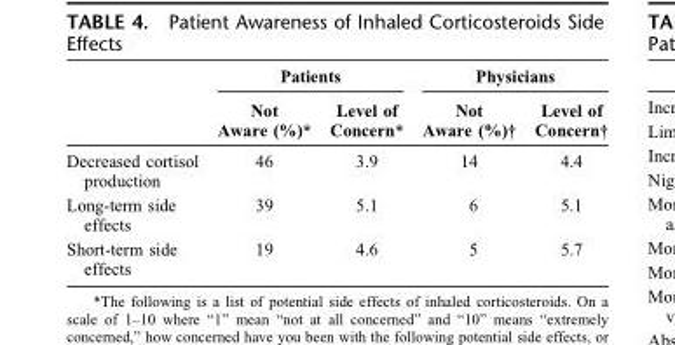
<table><thead><tr><td rowspan="2"></td><td colspan="2">Patients</td><td colspan="2">Physicians</td></tr><tr><td>Not Aware (%)*</td><td>Level of Concern*</td><td>Not Aware (%)†</td><td>Level of Concern†</td></tr></thead><tbody><tr><td>Decreased cortisol production</td><td>46</td><td>3.9</td><td>14</td><td>4.4</td></tr><tr><td>Long-term side effects</td><td>39</td><td>5.1</td><td>6</td><td>5.1</td></tr><tr><td>Short-term side effects</td><td>19</td><td>4.6</td><td>5</td><td>5.7</td></tr></tbody></table>